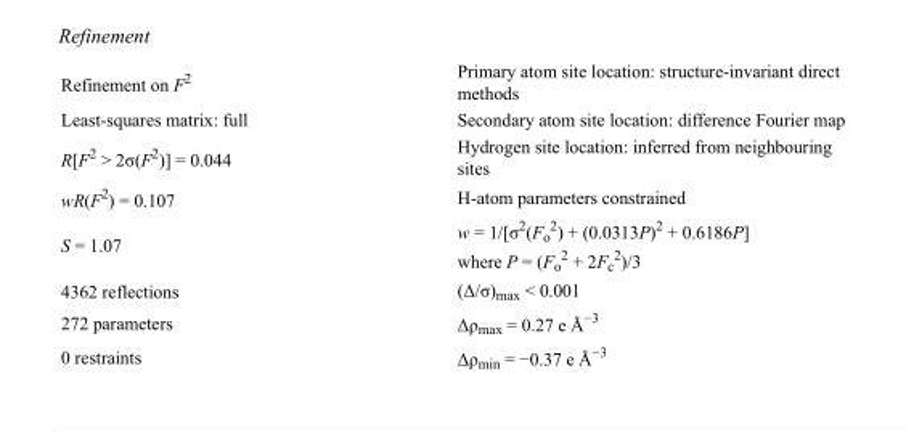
<table><tbody><tr><td>Refinement on F<sup>2</sup></td><td>Primary atom site location: structure-invariant direct methods</td></tr><tr><td>Least-squares matrix: full</td><td>Secondary atom site location: difference Fourier map</td></tr><tr><td>R[F<sup>2</sup> &gt; 2σ(F<sup>2</sup>)] = 0.044</td><td>Hydrogen site location: inferred from neighbouring sites</td></tr><tr><td>wR(F<sup>2</sup>) = 0.107</td><td>H-atom parameters constrained</td></tr><tr><td>S = 1.07</td><td>w = 1/[σ<sup>2</sup>(F<sub>o</sub> <sup>2</sup>) + (0.0313P)<sup>2</sup> + 0.6186P] where P = (F<sub>o</sub> <sup>2</sup> + 2F<sub>c</sub> <sup>2</sup>)/3</td></tr><tr><td>4362 reflections</td><td>(Δ/σ)<sub>max</sub> &lt; 0.001</td></tr><tr><td>272 parameters</td><td>Δρ<sub>max</sub> = 0.27 e Å<sup>−3</sup></td></tr><tr><td>0 restraints</td><td>Δρ<sub>min</sub> = −0.37 e Å<sup>−3</sup></td></tr></tbody></table>